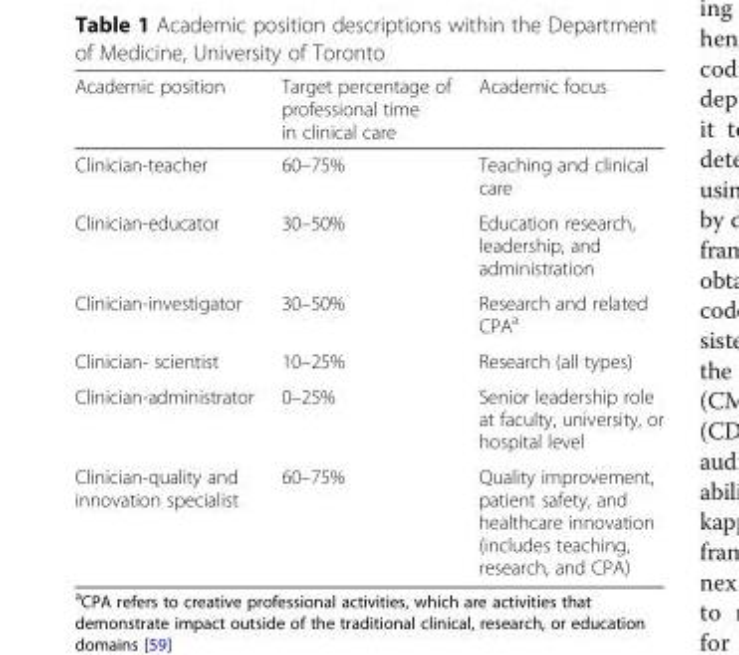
<table><thead><tr><td>Academic position</td><td>Target percentage of professional time in clinical care</td><td>Academic focus</td></tr></thead><tbody><tr><td>Clinician-teacher</td><td>60–75%</td><td>Teaching and clinical care</td></tr><tr><td>Clinician-educator</td><td>30–50%</td><td>Education research, leadership, and administration</td></tr><tr><td>Clinician-investigator</td><td>30–50%</td><td>Research and related CPA<sup>a</sup></td></tr><tr><td>Clinician- scientist</td><td>10–25%</td><td>Research (all types)</td></tr><tr><td>Clinician-administrator</td><td>0–25%</td><td>Senior leadership role at faculty, university, or hospital level</td></tr><tr><td>Clinician-quality and innovation specialist</td><td>60–75%</td><td>Quality improvement, patient safety, and healthcare innovation (includes teaching, research, and CPA)</td></tr></tbody></table>